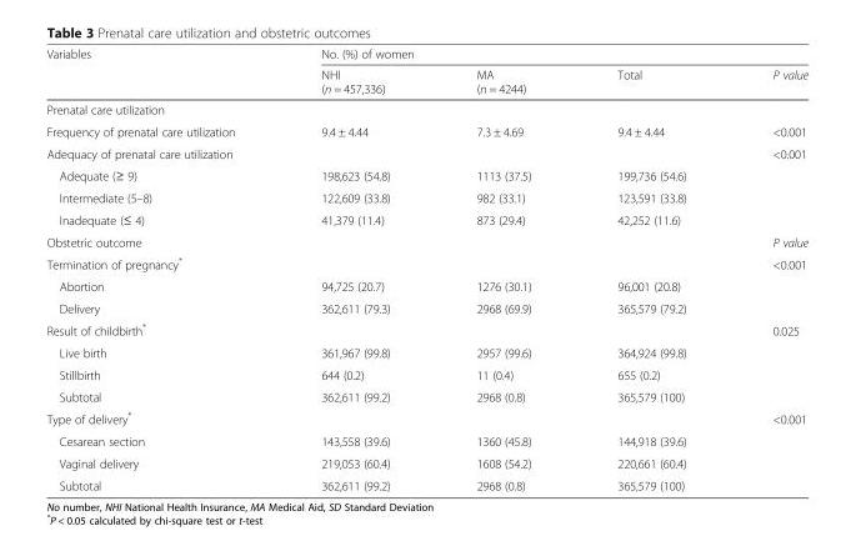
<table><thead><tr><td rowspan="2">Variables</td><td colspan="4">No. (%) of women</td></tr><tr><td>NHI (n = 457,336)</td><td>MA (n = 4244)</td><td>Total</td><td>P value</td></tr></thead><tbody><tr><td colspan="5">Prenatal care utilization</td></tr><tr><td>Frequency of prenatal care utilization</td><td>9.4 ± 4.44</td><td>7.3 ± 4.69</td><td>9.4 ± 4.44</td><td>&lt;0.001</td></tr><tr><td>Adequacy of prenatal care utilization</td><td></td><td></td><td></td><td>&lt;0.001</td></tr><tr><td>Adequate (≥ 9)</td><td>198,623 (54.8)</td><td>1113 (37.5)</td><td>199,736 (54.6)</td><td></td></tr><tr><td>Intermediate (5–8)</td><td>122,609 (33.8)</td><td>982 (33.1)</td><td>123,591 (33.8)</td><td></td></tr><tr><td>Inadequate (≤ 4)</td><td>41,379 (11.4)</td><td>873 (29.4)</td><td>42,252 (11.6)</td><td></td></tr><tr><td>Obstetric outcome</td><td></td><td></td><td></td><td>P value</td></tr><tr><td>Termination of pregnancy*</td><td></td><td></td><td></td><td>&lt;0.001</td></tr><tr><td>Abortion</td><td>94,725 (20.7)</td><td>1276 (30.1)</td><td>96,001 (20.8)</td><td></td></tr><tr><td>Delivery</td><td>362,611 (79.3)</td><td>2968 (69.9)</td><td>365,579 (79.2)</td><td></td></tr><tr><td>Result of childbirth*</td><td></td><td></td><td></td><td>0.025</td></tr><tr><td>Live birth</td><td>361,967 (99.8)</td><td>2957 (99.6)</td><td>364,924 (99.8)</td><td></td></tr><tr><td>Stillbirth</td><td>644 (0.2)</td><td>11 (0.4)</td><td>655 (0.2)</td><td></td></tr><tr><td>Subtotal</td><td>362,611 (99.2)</td><td>2968 (0.8)</td><td>365,579 (100)</td><td></td></tr><tr><td>Type of delivery*</td><td></td><td></td><td></td><td>&lt;0.001</td></tr><tr><td>Cesarean section</td><td>143,558 (39.6)</td><td>1360 (45.8)</td><td>144,918 (39.6)</td><td></td></tr><tr><td>Vaginal delivery</td><td>219,053 (60.4)</td><td>1608 (54.2)</td><td>220,661 (60.4)</td><td></td></tr><tr><td>Subtotal</td><td>362,611 (99.2)</td><td>2968 (0.8)</td><td>365,579 (100)</td><td></td></tr></tbody></table>